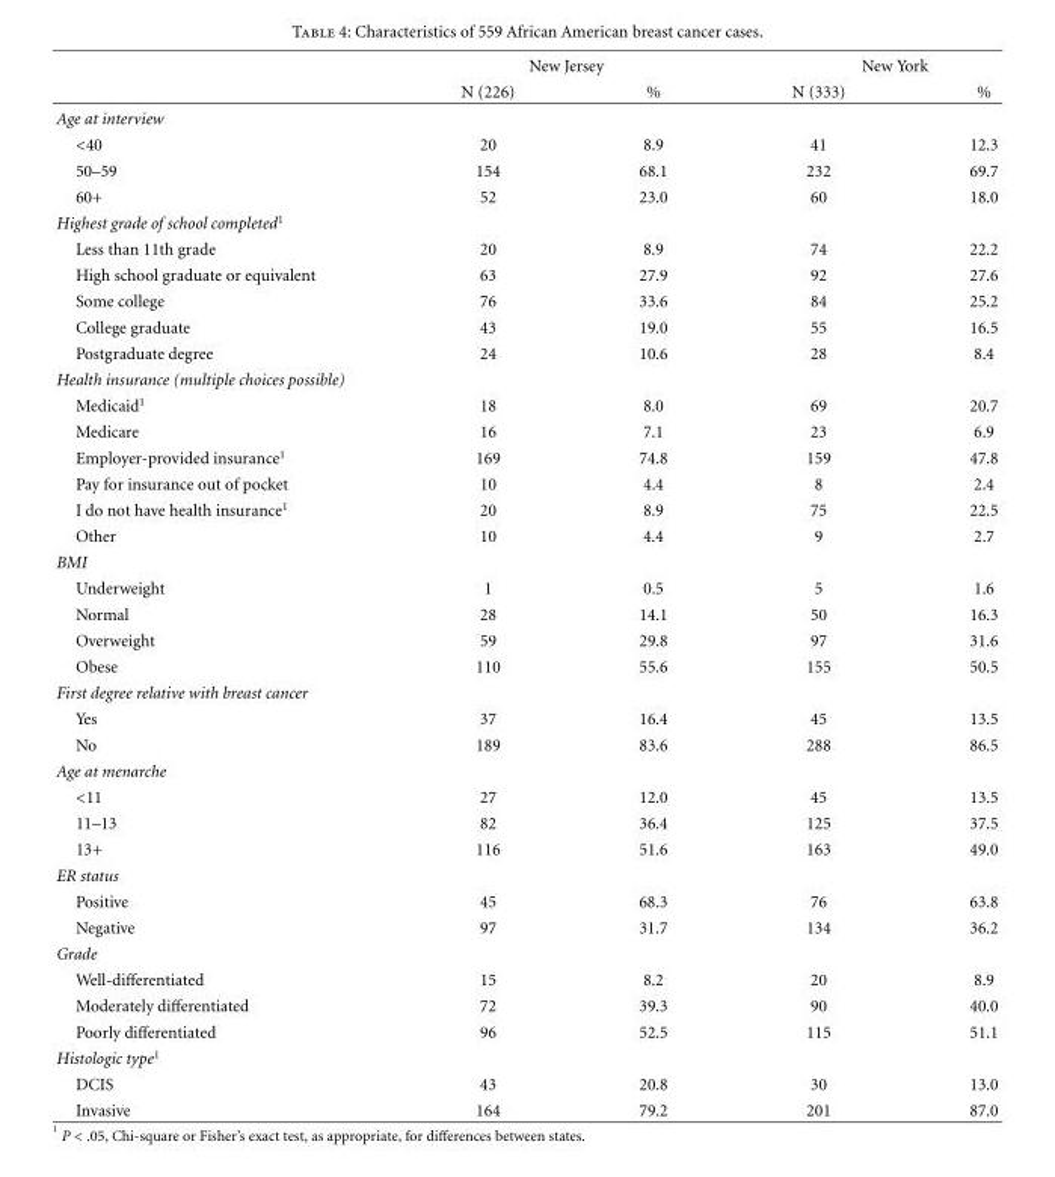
<table><thead><tr><td rowspan="2"></td><td colspan="2">New Jersey</td><td colspan="2">New York</td></tr><tr><td>N (226)</td><td>%</td><td>N (333)</td><td>%</td></tr></thead><tbody><tr><td colspan="5">Age at interview</td></tr><tr><td>&lt;40</td><td>20</td><td>8.9</td><td>41</td><td>12.3</td></tr><tr><td>50–59</td><td>154</td><td>68.1</td><td>232</td><td>69.7</td></tr><tr><td>60+</td><td>52</td><td>23.0</td><td>60</td><td>18.0</td></tr><tr><td colspan="5">Highest grade of school completed<sup>1</sup></td></tr><tr><td>Less than 11th grade</td><td>20</td><td>8.9</td><td>74</td><td>22.2</td></tr><tr><td>High school graduate or equivalent</td><td>63</td><td>27.9</td><td>92</td><td>27.6</td></tr><tr><td>Some college</td><td>76</td><td>33.6</td><td>84</td><td>25.2</td></tr><tr><td>College graduate</td><td>43</td><td>19.0</td><td>55</td><td>16.5</td></tr><tr><td>Postgraduate degree</td><td>24</td><td>10.6</td><td>28</td><td>8.4</td></tr><tr><td colspan="5">Health insurance (multiple choices possible)</td></tr><tr><td>Medicaid<sup>1</sup></td><td>18</td><td>8.0</td><td>69</td><td>20.7</td></tr><tr><td>Medicare</td><td>16</td><td>7.1</td><td>23</td><td>6.9</td></tr><tr><td>Employer-provided insurance<sup>1</sup></td><td>169</td><td>74.8</td><td>159</td><td>47.8</td></tr><tr><td>Pay for insurance out of pocket</td><td>10</td><td>4.4</td><td>8</td><td>2.4</td></tr><tr><td>I do not have health insurance<sup>1</sup></td><td>20</td><td>8.9</td><td>75</td><td>22.5</td></tr><tr><td>Other</td><td>10</td><td>4.4</td><td>9</td><td>2.7</td></tr><tr><td colspan="5">BMI</td></tr><tr><td>Underweight</td><td>1</td><td>0.5</td><td>5</td><td>1.6</td></tr><tr><td>Normal</td><td>28</td><td>14.1</td><td>50</td><td>16.3</td></tr><tr><td>Overweight</td><td>59</td><td>29.8</td><td>97</td><td>31.6</td></tr><tr><td>Obese</td><td>110</td><td>55.6</td><td>155</td><td>50.5</td></tr><tr><td colspan="5">First degree relative with breast cancer</td></tr><tr><td>Yes</td><td>37</td><td>16.4</td><td>45</td><td>13.5</td></tr><tr><td>No</td><td>189</td><td>83.6</td><td>288</td><td>86.5</td></tr><tr><td colspan="5">Age at menarche</td></tr><tr><td>&lt;11</td><td>27</td><td>12.0</td><td>45</td><td>13.5</td></tr><tr><td>11–13</td><td>82</td><td>36.4</td><td>125</td><td>37.5</td></tr><tr><td>13+</td><td>116</td><td>51.6</td><td>163</td><td>49.0</td></tr><tr><td colspan="5">ER status</td></tr><tr><td>Positive</td><td>45</td><td>68.3</td><td>76</td><td>63.8</td></tr><tr><td>Negative</td><td>97</td><td>31.7</td><td>134</td><td>36.2</td></tr><tr><td colspan="5">Grade</td></tr><tr><td>Well-differentiated</td><td>15</td><td>8.2</td><td>20</td><td>8.9</td></tr><tr><td>Moderately differentiated</td><td>72</td><td>39.3</td><td>90</td><td>40.0</td></tr><tr><td>Poorly differentiated</td><td>96</td><td>52.5</td><td>115</td><td>51.1</td></tr><tr><td colspan="5">Histologic type<sup>1</sup></td></tr><tr><td>DCIS</td><td>43</td><td>20.8</td><td>30</td><td>13.0</td></tr><tr><td>Invasive</td><td>164</td><td>79.2</td><td>201</td><td>87.0</td></tr></tbody></table>